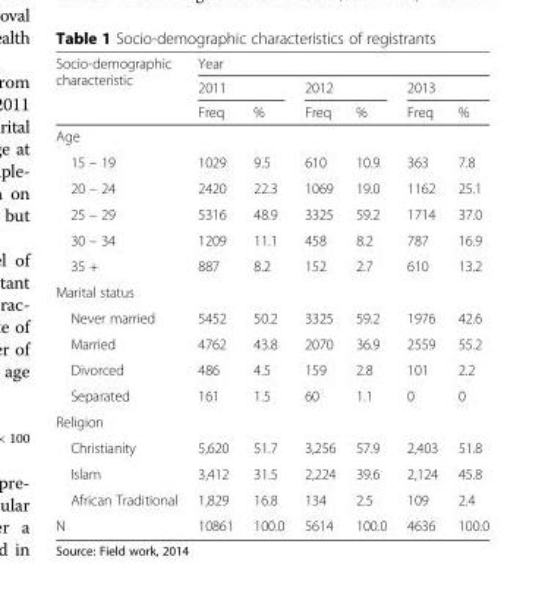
<table><thead><tr><td rowspan="3">Socio-demographic characteristic</td><td colspan="6">Year</td></tr><tr><td colspan="2">2011</td><td colspan="2">2012</td><td colspan="2">2013</td></tr><tr><td>Freq</td><td>%</td><td>Freq</td><td>%</td><td>Freq</td><td>%</td></tr></thead><tbody><tr><td colspan="7">Age</td></tr><tr><td>15 – 19</td><td>1029</td><td>9.5</td><td>610</td><td>10.9</td><td>363</td><td>7.8</td></tr><tr><td>20 – 24</td><td>2420</td><td>22.3</td><td>1069</td><td>19.0</td><td>1162</td><td>25.1</td></tr><tr><td>25 – 29</td><td>5316</td><td>48.9</td><td>3325</td><td>59.2</td><td>1714</td><td>37.0</td></tr><tr><td>30 – 34</td><td>1209</td><td>11.1</td><td>458</td><td>8.2</td><td>787</td><td>16.9</td></tr><tr><td>35 +</td><td>887</td><td>8.2</td><td>152</td><td>2.7</td><td>610</td><td>13.2</td></tr><tr><td colspan="7">Marital status</td></tr><tr><td>Never married</td><td>5452</td><td>50.2</td><td>3325</td><td>59.2</td><td>1976</td><td>42.6</td></tr><tr><td>Married</td><td>4762</td><td>43.8</td><td>2070</td><td>36.9</td><td>2559</td><td>55.2</td></tr><tr><td>Divorced</td><td>486</td><td>4.5</td><td>159</td><td>2.8</td><td>101</td><td>2.2</td></tr><tr><td>Separated</td><td>161</td><td>1.5</td><td>60</td><td>1.1</td><td>0</td><td>0</td></tr><tr><td colspan="7">Religion</td></tr><tr><td>Christianity</td><td>5,620</td><td>51.7</td><td>3,256</td><td>57.9</td><td>2,403</td><td>51.8</td></tr><tr><td>Islam</td><td>3,412</td><td>31.5</td><td>2,224</td><td>39.6</td><td>2,124</td><td>45.8</td></tr><tr><td>African Traditional</td><td>1,829</td><td>16.8</td><td>134</td><td>2.5</td><td>109</td><td>2.4</td></tr><tr><td>N</td><td>10861</td><td>100.0</td><td>5614</td><td>100.0</td><td>4636</td><td>100.0</td></tr></tbody></table>